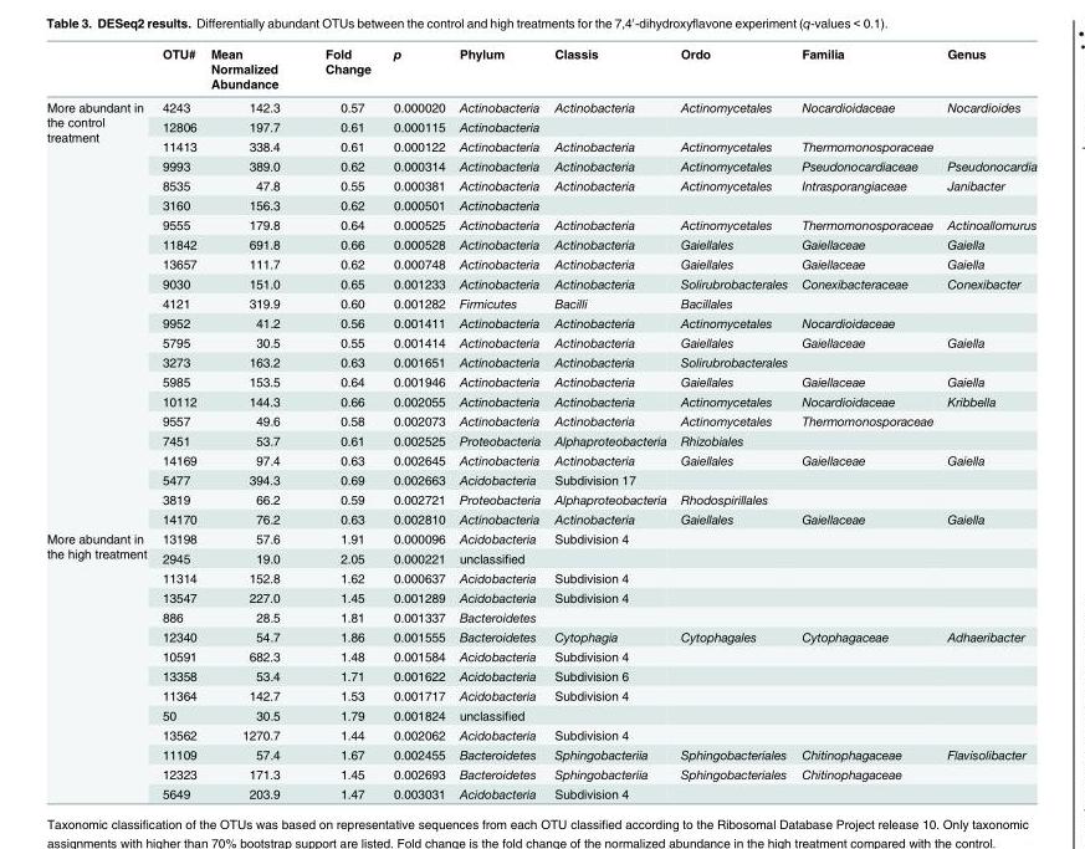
<table><thead><tr><td></td><td>OTU#</td><td>Mean Normalized Abundance</td><td>Fold Change</td><td>p</td><td>Phylum</td><td>Classis</td><td>Ordo</td><td>Familia</td><td>Genus</td></tr></thead><tbody><tr><td rowspan="22">More abundant in the control treatment</td><td>4243</td><td>142.3</td><td>0.57</td><td>0.000020</td><td>Actinobacteria</td><td>Actinobacteria</td><td>Actinomycetales</td><td>Nocardioidaceae</td><td>Nocardioides</td></tr><tr><td>12806</td><td>197.7</td><td>0.61</td><td>0.000115</td><td>Actinobacteria</td><td></td><td></td><td></td><td></td></tr><tr><td>11413</td><td>338.4</td><td>0.61</td><td>0.000122</td><td>Actinobacteria</td><td>Actinobacteria</td><td>Actinomycetales</td><td>Thermomonosporaceae</td><td></td></tr><tr><td>9993</td><td>389.0</td><td>0.62</td><td>0.000314</td><td>Actinobacteria</td><td>Actinobacteria</td><td>Actinomycetales</td><td>Pseudonocardiaceae</td><td>Pseudonocardia</td></tr><tr><td>8535</td><td>47.8</td><td>0.55</td><td>0.000381</td><td>Actinobacteria</td><td>Actinobacteria</td><td>Actinomycetales</td><td>Intrasporangiaceae</td><td>Janibacter</td></tr><tr><td>3160</td><td>156.3</td><td>0.62</td><td>0.000501</td><td>Actinobacteria</td><td></td><td></td><td></td><td></td></tr><tr><td>9555</td><td>179.8</td><td>0.64</td><td>0.000525</td><td>Actinobacteria</td><td>Actinobacteria</td><td>Actinomycetales</td><td>Thermomonosporaceae</td><td>Actinoallomurus</td></tr><tr><td>11842</td><td>691.8</td><td>0.66</td><td>0.000528</td><td>Actinobacteria</td><td>Actinobacteria</td><td>Gaiellales</td><td>Gaiellaceae</td><td>Gaiella</td></tr><tr><td>13657</td><td>111.7</td><td>0.62</td><td>0.000748</td><td>Actinobacteria</td><td>Actinobacteria</td><td>Gaiellales</td><td>Gaiellaceae</td><td>Gaiella</td></tr><tr><td>9030</td><td>151.0</td><td>0.65</td><td>0.001233</td><td>Actinobacteria</td><td>Actinobacteria</td><td>Solirubrobacterales</td><td>Conexibacteraceae</td><td>Conexibacter</td></tr><tr><td>4121</td><td>319.9</td><td>0.60</td><td>0.001282</td><td>Firmicutes</td><td>Bacilli</td><td>Bacillales</td><td></td><td></td></tr><tr><td>9952</td><td>41.2</td><td>0.56</td><td>0.001411</td><td>Actinobacteria</td><td>Actinobacteria</td><td>Actinomycetales</td><td>Nocardioidaceae</td><td></td></tr><tr><td>5795</td><td>30.5</td><td>0.55</td><td>0.001414</td><td>Actinobacteria</td><td>Actinobacteria</td><td>Gaiellales</td><td>Gaiellaceae</td><td>Gaiella</td></tr><tr><td>3273</td><td>163.2</td><td>0.63</td><td>0.001651</td><td>Actinobacteria</td><td>Actinobacteria</td><td>Solirubrobacterales</td><td></td><td></td></tr><tr><td>5985</td><td>153.5</td><td>0.64</td><td>0.001946</td><td>Actinobacteria</td><td>Actinobacteria</td><td>Gaiellales</td><td>Gaiellaceae</td><td>Gaiella</td></tr><tr><td>10112</td><td>144.3</td><td>0.66</td><td>0.002055</td><td>Actinobacteria</td><td>Actinobacteria</td><td>Actinomycetales</td><td>Nocardioidaceae</td><td>Kribbella</td></tr><tr><td>9557</td><td>49.6</td><td>0.58</td><td>0.002073</td><td>Actinobacteria</td><td>Actinobacteria</td><td>Actinomycetales</td><td>Thermomonosporaceae</td><td></td></tr><tr><td>7451</td><td>53.7</td><td>0.61</td><td>0.002525</td><td>Proteobacteria</td><td>Alphaproteobacteria</td><td>Rhizobiales</td><td></td><td></td></tr><tr><td>14169</td><td>97.4</td><td>0.63</td><td>0.002645</td><td>Actinobacteria</td><td>Actinobacteria</td><td>Gaiellales</td><td>Gaiellaceae</td><td>Gaiella</td></tr><tr><td>5477</td><td>394.3</td><td>0.69</td><td>0.002663</td><td>Acidobacteria</td><td>Subdivision 17</td><td></td><td></td><td></td></tr><tr><td>3819</td><td>66.2</td><td>0.59</td><td>0.002721</td><td>Proteobacteria</td><td>Alphaproteobacteria</td><td>Rhodospirillales</td><td></td><td></td></tr><tr><td>14170</td><td>76.2</td><td>0.63</td><td>0.002810</td><td>Actinobacteria</td><td>Actinobacteria</td><td>Gaiellales</td><td>Gaiellaceae</td><td>Gaiella</td></tr><tr><td rowspan="14">More abundant in the high treatment</td><td>13198</td><td>57.6</td><td>1.91</td><td>0.000096</td><td>Acidobacteria</td><td>Subdivision 4</td><td></td><td></td><td></td></tr><tr><td>2945</td><td>19.0</td><td>2.05</td><td>0.000221</td><td>unclassified</td><td></td><td></td><td></td><td></td></tr><tr><td>11314</td><td>152.8</td><td>1.62</td><td>0.000637</td><td>Acidobacteria</td><td>Subdivision 4</td><td></td><td></td><td></td></tr><tr><td>13547</td><td>227.0</td><td>1.45</td><td>0.001289</td><td>Acidobacteria</td><td>Subdivision 4</td><td></td><td></td><td></td></tr><tr><td>886</td><td>28.5</td><td>1.81</td><td>0.001337</td><td>Bacteroidetes</td><td></td><td></td><td></td><td></td></tr><tr><td>12340</td><td>54.7</td><td>1.86</td><td>0.001555</td><td>Bacteroidetes</td><td>Cytophagia</td><td>Cytophagales</td><td>Cytophagaceae</td><td>Adhaeribacter</td></tr><tr><td>10591</td><td>682.3</td><td>1.48</td><td>0.001584</td><td>Acidobacteria</td><td>Subdivision 4</td><td></td><td></td><td></td></tr><tr><td>13358</td><td>53.4</td><td>1.71</td><td>0.001622</td><td>Acidobacteria</td><td>Subdivision 6</td><td></td><td></td><td></td></tr><tr><td>11364</td><td>142.7</td><td>1.53</td><td>0.001717</td><td>Acidobacteria</td><td>Subdivision 4</td><td></td><td></td><td></td></tr><tr><td>50</td><td>30.5</td><td>1.79</td><td>0.001824</td><td>unclassified</td><td></td><td></td><td></td><td></td></tr><tr><td>13562</td><td>1270.7</td><td>1.44</td><td>0.002062</td><td>Acidobacteria</td><td>Subdivision 4</td><td></td><td></td><td></td></tr><tr><td>11109</td><td>57.4</td><td>1.67</td><td>0.002455</td><td>Bacteroidetes</td><td>Sphingobacteriia</td><td>Sphingobacteriales</td><td>Chitinophagaceae</td><td>Flavisolibacter</td></tr><tr><td>12323</td><td>171.3</td><td>1.45</td><td>0.002693</td><td>Bacteroidetes</td><td>Sphingobacteriia</td><td>Sphingobacteriales</td><td>Chitinophagaceae</td><td></td></tr><tr><td>5649</td><td>203.9</td><td>1.47</td><td>0.003031</td><td>Acidobacteria</td><td>Subdivision 4</td><td></td><td></td><td></td></tr></tbody></table>